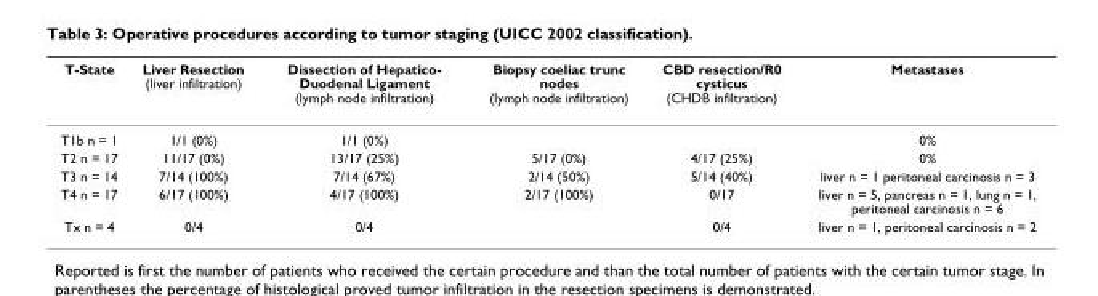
<table><thead><tr><td>T-State</td><td>Liver Resection (liver infiltration)</td><td>Dissection of Hepatico- Duodenal Ligament (lymph node infiltration)</td><td>Biopsy coeliac trunc nodes (lymph node infiltration)</td><td>CBD resection/R0 cysticus (CHDB infiltration)</td><td>Metastases</td></tr></thead><tbody><tr><td>T1b n = 1</td><td>1/1 (0%)</td><td>1/1 (0%)</td><td></td><td></td><td>0%</td></tr><tr><td>T2 n = 17</td><td>11/17 (0%)</td><td>13/17 (25%)</td><td>5/17 (0%)</td><td>4/17 (25%)</td><td>0%</td></tr><tr><td>T3 n = 14</td><td>7/14 (100%)</td><td>7/14 (67%)</td><td>2/14 (50%)</td><td>5/14 (40%)</td><td>liver n = 1 peritoneal carcinosis n = 3</td></tr><tr><td>T4 n = 17</td><td>6/17 (100%)</td><td>4/17 (100%)</td><td>2/17 (100%)</td><td>0/17</td><td>liver n = 5, pancreas n = 1, lung n = 1, peritoneal carcinosis n = 6</td></tr><tr><td>Tx n = 4</td><td>0/4</td><td>0/4</td><td></td><td>0/4</td><td>liver n = 1, peritoneal carcinosis n = 2</td></tr></tbody></table>